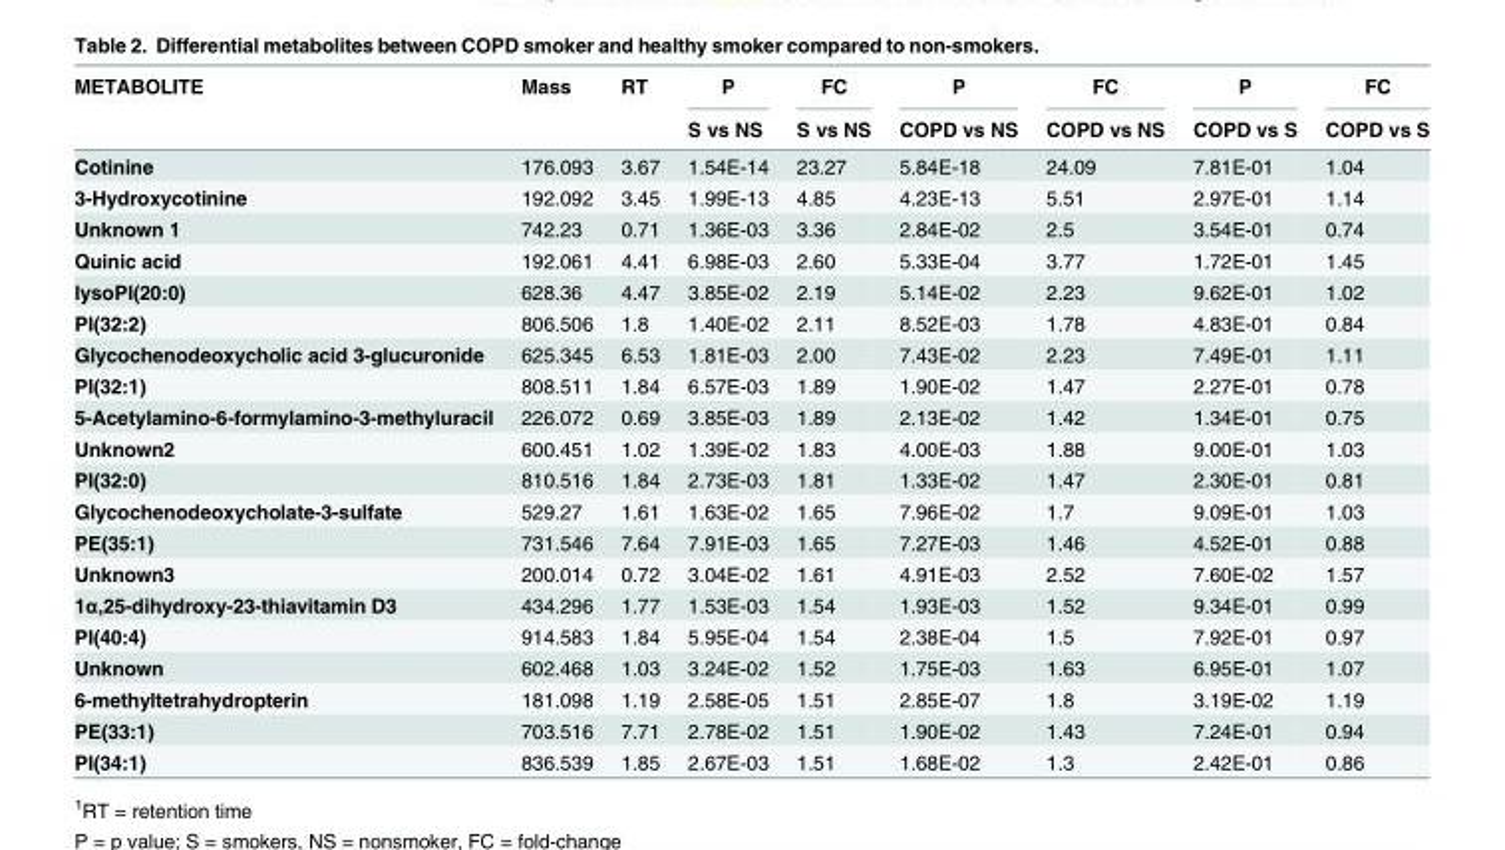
<table><thead><tr><td rowspan="2">METABOLITE</td><td rowspan="2">Mass</td><td rowspan="2">RT</td><td rowspan="2">P S vs NS</td><td rowspan="2">FC S vs NS</td><td rowspan="2">P COPD vs NS</td><td rowspan="2">FC COPD vs NS</td><td rowspan="2">P COPD vs S</td><td rowspan="2">FC COPD vs S</td></tr><tr></tr></thead><tbody><tr><td>Cotinine</td><td>176.093</td><td>3.67</td><td>1.54E-14</td><td>23.27</td><td>5.84E-18</td><td>24.09</td><td>7.81E-01</td><td>1.04</td></tr><tr><td>3-Hydroxycotinine</td><td>192.092</td><td>3.45</td><td>1.99E-13</td><td>4.85</td><td>4.23E-13</td><td>5.51</td><td>2.97E-01</td><td>1.14</td></tr><tr><td>Unknown 1</td><td>742.23</td><td>0.71</td><td>1.36E-03</td><td>3.36</td><td>2.84E-02</td><td>2.5</td><td>3.54E-01</td><td>0.74</td></tr><tr><td>Quinic acid</td><td>192.061</td><td>4.41</td><td>6.98E-03</td><td>2.60</td><td>5.33E-04</td><td>3.77</td><td>1.72E-01</td><td>1.45</td></tr><tr><td>lysoPI(20:0)</td><td>628.36</td><td>4.47</td><td>3.85E-02</td><td>2.19</td><td>5.14E-02</td><td>2.23</td><td>9.62E-01</td><td>1.02</td></tr><tr><td>PI(32:2)</td><td>806.506</td><td>1.8</td><td>1.40E-02</td><td>2.11</td><td>8.52E-03</td><td>1.78</td><td>4.83E-01</td><td>0.84</td></tr><tr><td>Glycochenodeoxycholic acid 3-glucuronide</td><td>625.345</td><td>6.53</td><td>1.81E-03</td><td>2.00</td><td>7.43E-02</td><td>2.23</td><td>7.49E-01</td><td>1.11</td></tr><tr><td>PI(32:1)</td><td>808.511</td><td>1.84</td><td>6.57E-03</td><td>1.89</td><td>1.90E-02</td><td>1.47</td><td>2.27E-01</td><td>0.78</td></tr><tr><td>5-Acetylamino-6-formylamino-3-methyluracil</td><td>226.072</td><td>0.69</td><td>3.85E-03</td><td>1.89</td><td>2.13E-02</td><td>1.42</td><td>1.34E-01</td><td>0.75</td></tr><tr><td>Unknown2</td><td>600.451</td><td>1.02</td><td>1.39E-02</td><td>1.83</td><td>4.00E-03</td><td>1.88</td><td>9.00E-01</td><td>1.03</td></tr><tr><td>PI(32:0)</td><td>810.516</td><td>1.84</td><td>2.73E-03</td><td>1.81</td><td>1.33E-02</td><td>1.47</td><td>2.30E-01</td><td>0.81</td></tr><tr><td>Glycochenodeoxycholate-3-sulfate</td><td>529.27</td><td>1.61</td><td>1.63E-02</td><td>1.65</td><td>7.96E-02</td><td>1.7</td><td>9.09E-01</td><td>1.03</td></tr><tr><td>PE(35:1)</td><td>731.546</td><td>7.64</td><td>7.91E-03</td><td>1.65</td><td>7.27E-03</td><td>1.46</td><td>4.52E-01</td><td>0.88</td></tr><tr><td>Unknown3</td><td>200.014</td><td>0.72</td><td>3.04E-02</td><td>1.61</td><td>4.91E-03</td><td>2.52</td><td>7.60E-02</td><td>1.57</td></tr><tr><td>1α,25-dihydroxy-23-thiavitamin D3</td><td>434.296</td><td>1.77</td><td>1.53E-03</td><td>1.54</td><td>1.93E-03</td><td>1.52</td><td>9.34E-01</td><td>0.99</td></tr><tr><td>PI(40:4)</td><td>914.583</td><td>1.84</td><td>5.95E-04</td><td>1.54</td><td>2.38E-04</td><td>1.5</td><td>7.92E-01</td><td>0.97</td></tr><tr><td>Unknown</td><td>602.468</td><td>1.03</td><td>3.24E-02</td><td>1.52</td><td>1.75E-03</td><td>1.63</td><td>6.95E-01</td><td>1.07</td></tr><tr><td>6-methyltetrahydropterin</td><td>181.098</td><td>1.19</td><td>2.58E-05</td><td>1.51</td><td>2.85E-07</td><td>1.8</td><td>3.19E-02</td><td>1.19</td></tr><tr><td>PE(33:1)</td><td>703.516</td><td>7.71</td><td>2.78E-02</td><td>1.51</td><td>1.90E-02</td><td>1.43</td><td>7.24E-01</td><td>0.94</td></tr><tr><td>PI(34:1)</td><td>836.539</td><td>1.85</td><td>2.67E-03</td><td>1.51</td><td>1.68E-02</td><td>1.3</td><td>2.42E-01</td><td>0.86</td></tr></tbody></table>